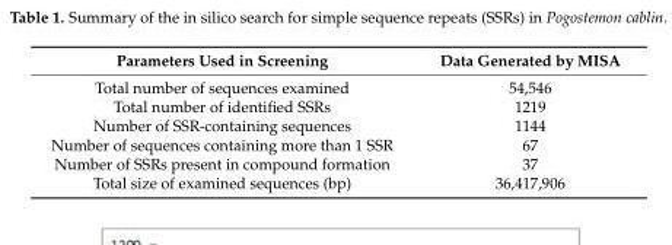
<table><thead><tr><td>Parameters Used in Screening</td><td>Data Generated by MISA</td></tr></thead><tbody><tr><td>Total number of sequences examined</td><td>54,546</td></tr><tr><td>Total number of identified SSRs</td><td>1219</td></tr><tr><td>Number of SSR-containing sequences</td><td>1144</td></tr><tr><td>Number of sequences containing more than 1 SSR</td><td>67</td></tr><tr><td>Number of SSRs present in compound formation</td><td>37</td></tr><tr><td>Total size of examined sequences (bp)</td><td>36,417,906</td></tr></tbody></table>